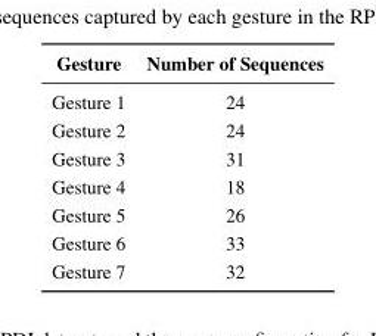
<table><thead><tr><td>Gesture</td><td>Number of Sequences</td></tr></thead><tbody><tr><td>Gesture 1</td><td>24</td></tr><tr><td>Gesture 2</td><td>24</td></tr><tr><td>Gesture 3</td><td>31</td></tr><tr><td>Gesture 4</td><td>18</td></tr><tr><td>Gesture 5</td><td>26</td></tr><tr><td>Gesture 6</td><td>33</td></tr><tr><td>Gesture 7</td><td>32</td></tr></tbody></table>